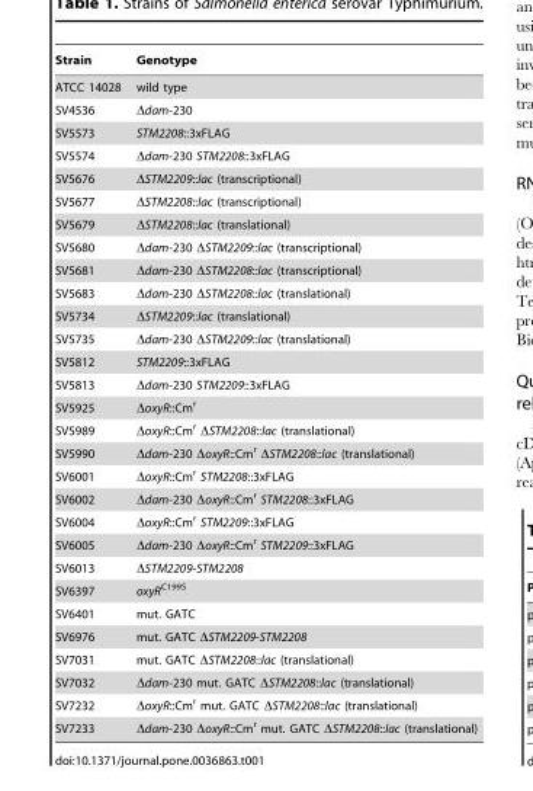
<table><thead><tr><td>Strain</td><td>Genotype</td></tr></thead><tbody><tr><td>ATCC 14028</td><td>wild type</td></tr><tr><td>SV4536</td><td>Δdam-230</td></tr><tr><td>SV5573</td><td>STM2208::3xFLAG</td></tr><tr><td>SV5574</td><td>Δdam-230 STM2208::3xFLAG</td></tr><tr><td>SV5676</td><td>ΔSTM2209::lac (transcriptional)</td></tr><tr><td>SV5677</td><td>ΔSTM2208::lac (transcriptional)</td></tr><tr><td>SV5679</td><td>ΔSTM2208::lac (translational)</td></tr><tr><td>SV5680</td><td>Δdam-230 ΔSTM2209::lac (transcriptional)</td></tr><tr><td>SV5681</td><td>Δdam-230 ΔSTM2208::lac (transcriptional)</td></tr><tr><td>SV5683</td><td>Δdam-230 ΔSTM2208::lac (translational)</td></tr><tr><td>SV5734</td><td>ΔSTM2209::lac (translational)</td></tr><tr><td>SV5735</td><td>Δdam-230 ΔSTM2209::lac (translational)</td></tr><tr><td>SV5812</td><td>STM2209::3xFLAG</td></tr><tr><td>SV5813</td><td>Δdam-230 STM2209::3xFLAG</td></tr><tr><td>SV5925</td><td>ΔoxyR::Cm<sup>r</sup></td></tr><tr><td>SV5989</td><td>ΔoxyR::Cm<sup>r</sup> ΔSTM2208::lac (translational)</td></tr><tr><td>SV5990</td><td>Δdam-230 ΔoxyR::Cm<sup>r</sup> ΔSTM2208::lac (translational)</td></tr><tr><td>SV6001</td><td>ΔoxyR::Cm<sup>r</sup> STM2208::3xFLAG</td></tr><tr><td>SV6002</td><td>Δdam-230 ΔoxyR::Cm<sup>r</sup> STM2208::3xFLAG</td></tr><tr><td>SV6004</td><td>ΔoxyR::Cm<sup>r</sup> STM2209::3xFLAG</td></tr><tr><td>SV6005</td><td>Δdam-230 ΔoxyR::Cm<sup>r</sup> STM2209::3xFLAG</td></tr><tr><td>SV6013</td><td>ΔSTM2209-STM2208</td></tr><tr><td>SV6397</td><td>oxyR<sup>C199S</sup></td></tr><tr><td>SV6401</td><td>mut. GATC</td></tr><tr><td>SV6976</td><td>mut. GATC ΔSTM2209-STM2208</td></tr><tr><td>SV7031</td><td>mut. GATC ΔSTM2208::lac (translational)</td></tr><tr><td>SV7032</td><td>Δdam-230 mut. GATC ΔSTM2208::lac (translational)</td></tr><tr><td>SV7232</td><td>ΔoxyR::Cm<sup>r</sup> mut. GATC ΔSTM2208::lac (translational)</td></tr><tr><td>SV7233</td><td>Δdam-230 ΔoxyR::Cm<sup>r</sup> mut. GATC ΔSTM2208::lac (translational)</td></tr></tbody></table>